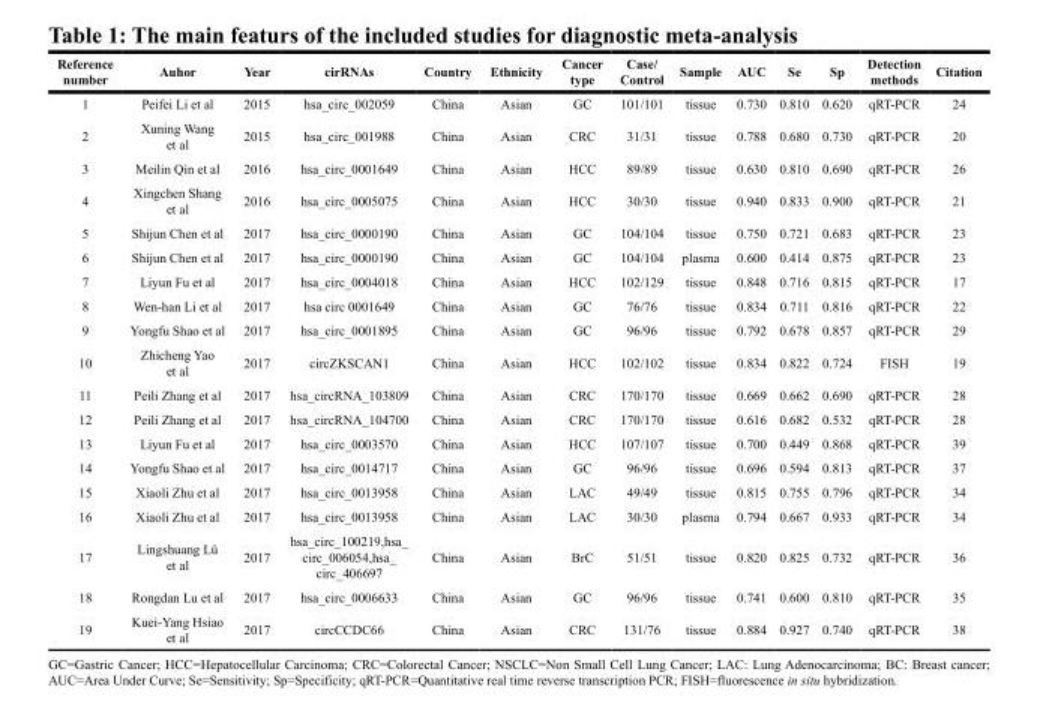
<table><thead><tr><td>Reference number</td><td>Auhor</td><td>Year</td><td>cirRNAs</td><td>Country</td><td>Ethnicity</td><td>Cancer type</td><td>Case/ Control</td><td>Sample</td><td>AUC</td><td>Se</td><td>Sp</td><td>Detection methods</td><td>Citation</td></tr></thead><tbody><tr><td>1</td><td>Peifei Li et al</td><td>2015</td><td>hsa_circ_002059</td><td>China</td><td>Asian</td><td>GC</td><td>101/101</td><td>tissue</td><td>0.730</td><td>0.810</td><td>0.620</td><td>qRT-PCR</td><td>24</td></tr><tr><td>2</td><td>Xuning Wang et al</td><td>2015</td><td>hsa_circ_001988</td><td>China</td><td>Asian</td><td>CRC</td><td>31/31</td><td>tissue</td><td>0.788</td><td>0.680</td><td>0.730</td><td>qRT-PCR</td><td>20</td></tr><tr><td>3</td><td>Meilin Qin et al</td><td>2016</td><td>hsa_circ_0001649</td><td>China</td><td>Asian</td><td>HCC</td><td>89/89</td><td>tissue</td><td>0.630</td><td>0.810</td><td>0.690</td><td>qRT-PCR</td><td>26</td></tr><tr><td>4</td><td>Xingchen Shang et al</td><td>2016</td><td>hsa_circ_0005075</td><td>China</td><td>Asian</td><td>HCC</td><td>30/30</td><td>tissue</td><td>0.940</td><td>0.833</td><td>0.900</td><td>qRT-PCR</td><td>21</td></tr><tr><td>5</td><td>Shijun Chen et al</td><td>2017</td><td>hsa_circ_0000190</td><td>China</td><td>Asian</td><td>GC</td><td>104/104</td><td>tissue</td><td>0.750</td><td>0.721</td><td>0.683</td><td>qRT-PCR</td><td>23</td></tr><tr><td>6</td><td>Shijun Chen et al</td><td>2017</td><td>hsa_circ_0000190</td><td>China</td><td>Asian</td><td>GC</td><td>104/104</td><td>plasma</td><td>0.600</td><td>0.414</td><td>0.875</td><td>qRT-PCR</td><td>23</td></tr><tr><td>7</td><td>Liyun Fu et al</td><td>2017</td><td>hsa_circ_0004018</td><td>China</td><td>Asian</td><td>HCC</td><td>102/129</td><td>tissue</td><td>0.848</td><td>0.716</td><td>0.815</td><td>qRT-PCR</td><td>17</td></tr><tr><td>8</td><td>Wen-han Li et al</td><td>2017</td><td>hsa circ 0001649</td><td>China</td><td>Asian</td><td>GC</td><td>76/76</td><td>tissue</td><td>0.834</td><td>0.711</td><td>0.816</td><td>qRT-PCR</td><td>22</td></tr><tr><td>9</td><td>Yongfu Shao et al</td><td>2017</td><td>hsa_circ_0001895</td><td>China</td><td>Asian</td><td>GC</td><td>96/96</td><td>tissue</td><td>0.792</td><td>0.678</td><td>0.857</td><td>qRT-PCR</td><td>29</td></tr><tr><td>10</td><td>Zhicheng Yao et al</td><td>2017</td><td>circZKSCAN1</td><td>China</td><td>Asian</td><td>HCC</td><td>102/102</td><td>tissue</td><td>0.834</td><td>0.822</td><td>0.724</td><td>FISH</td><td>19</td></tr><tr><td>11</td><td>Peili Zhang et al</td><td>2017</td><td>hsa_circRNA_103809</td><td>China</td><td>Asian</td><td>CRC</td><td>170/170</td><td>tissue</td><td>0.669</td><td>0.662</td><td>0.690</td><td>qRT-PCR</td><td>28</td></tr><tr><td>12</td><td>Peili Zhang et al</td><td>2017</td><td>hsa_circRNA_104700</td><td>China</td><td>Asian</td><td>CRC</td><td>170/170</td><td>tissue</td><td>0.616</td><td>0.682</td><td>0.532</td><td>qRT-PCR</td><td>28</td></tr><tr><td>13</td><td>Liyun Fu et al</td><td>2017</td><td>hsa_circ_0003570</td><td>China</td><td>Asian</td><td>HCC</td><td>107/107</td><td>tissue</td><td>0.700</td><td>0.449</td><td>0.868</td><td>qRT-PCR</td><td>39</td></tr><tr><td>14</td><td>Yongfu Shao et al</td><td>2017</td><td>hsa_circ_0014717</td><td>China</td><td>Asian</td><td>GC</td><td>96/96</td><td>tissue</td><td>0.696</td><td>0.594</td><td>0.813</td><td>qRT-PCR</td><td>37</td></tr><tr><td>15</td><td>Xiaoli Zhu et al</td><td>2017</td><td>hsa_circ_0013958</td><td>China</td><td>Asian</td><td>LAC</td><td>49/49</td><td>tissue</td><td>0.815</td><td>0.755</td><td>0.796</td><td>qRT-PCR</td><td>34</td></tr><tr><td>16</td><td>Xiaoli Zhu et al</td><td>2017</td><td>hsa_circ_0013958</td><td>China</td><td>Asian</td><td>LAC</td><td>30/30</td><td>plasma</td><td>0.794</td><td>0.667</td><td>0.933</td><td>qRT-PCR</td><td>34</td></tr><tr><td>17</td><td>Lingshuang Lü et al</td><td>2017</td><td>hsa_circ_100219,hsa_ circ_006054,hsa_ circ_406697</td><td>China</td><td>Asian</td><td>BrC</td><td>51/51</td><td>tissue</td><td>0.820</td><td>0.825</td><td>0.732</td><td>qRT-PCR</td><td>36</td></tr><tr><td>18</td><td>Rongdan Lu et al</td><td>2017</td><td>hsa_circ_0006633</td><td>China</td><td>Asian</td><td>GC</td><td>96/96</td><td>tissue</td><td>0.741</td><td>0.600</td><td>0.810</td><td>qRT-PCR</td><td>35</td></tr><tr><td>19</td><td>Kuei-Yang Hsiao et al</td><td>2017</td><td>circCCDC66</td><td>China</td><td>Asian</td><td>CRC</td><td>131/76</td><td>tissue</td><td>0.884</td><td>0.927</td><td>0.740</td><td>qRT-PCR</td><td>38</td></tr></tbody></table>